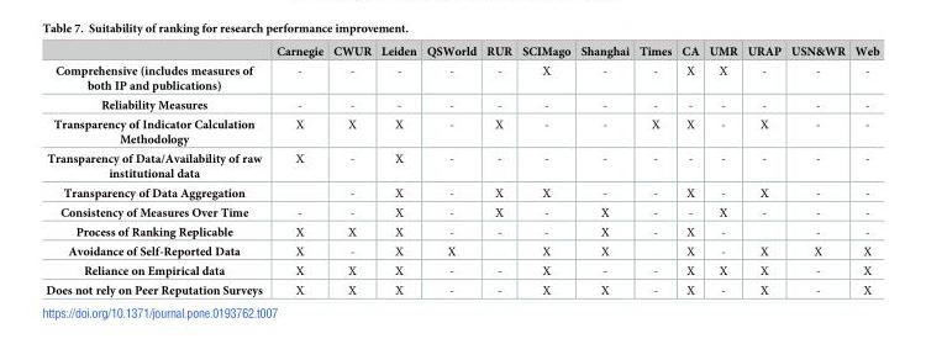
<table><thead><tr><td></td><td>Carnegie</td><td>CWUR</td><td>Leiden</td><td>QSWorld</td><td>RUR</td><td>SCIMago</td><td>Shanghai</td><td>Times</td><td>CA</td><td>UMR</td><td>URAP</td><td>USN&amp;WR</td><td>Web</td></tr></thead><tbody><tr><td>Comprehensive (includes measures of both IP and publications)</td><td>-</td><td>-</td><td>-</td><td>-</td><td>-</td><td>X</td><td>-</td><td>-</td><td>X</td><td>X</td><td>-</td><td>-</td><td>-</td></tr><tr><td>Reliability Measures</td><td>-</td><td>-</td><td>-</td><td>-</td><td>-</td><td>-</td><td>-</td><td>-</td><td>-</td><td>-</td><td>-</td><td>-</td><td>-</td></tr><tr><td>Transparency of Indicator Calculation Methodology</td><td>X</td><td>X</td><td>X</td><td>-</td><td>X</td><td>-</td><td>-</td><td>X</td><td>X</td><td>-</td><td>X</td><td>-</td><td>-</td></tr><tr><td>Transparency of Data/Availability of raw institutional data</td><td>X</td><td>-</td><td>X</td><td>-</td><td>-</td><td>-</td><td>-</td><td>-</td><td>-</td><td>-</td><td>-</td><td>-</td><td>-</td></tr><tr><td>Transparency of Data Aggregation</td><td></td><td>-</td><td>X</td><td>-</td><td>X</td><td>X</td><td>-</td><td>-</td><td>X</td><td>-</td><td>X</td><td>-</td><td>-</td></tr><tr><td>Consistency of Measures Over Time</td><td>-</td><td>-</td><td>X</td><td>-</td><td>X</td><td>-</td><td>X</td><td>-</td><td>-</td><td>X</td><td>-</td><td>-</td><td>-</td></tr><tr><td>Process of Ranking Replicable</td><td>X</td><td>X</td><td>X</td><td>-</td><td>-</td><td>-</td><td>X</td><td>-</td><td>X</td><td>-</td><td></td><td>-</td><td>-</td></tr><tr><td>Avoidance of Self-Reported Data</td><td>X</td><td>-</td><td>X</td><td>X</td><td></td><td>X</td><td>X</td><td></td><td>X</td><td>-</td><td>X</td><td>X</td><td>X</td></tr><tr><td>Reliance on Empirical data</td><td>X</td><td>X</td><td>X</td><td>-</td><td>-</td><td>X</td><td>-</td><td>-</td><td>X</td><td>X</td><td>X</td><td>-</td><td>X</td></tr><tr><td>Does not rely on Peer Reputation Surveys</td><td>X</td><td>X</td><td>X</td><td>-</td><td>-</td><td>X</td><td>X</td><td>-</td><td>X</td><td>-</td><td>X</td><td>-</td><td>X</td></tr></tbody></table>